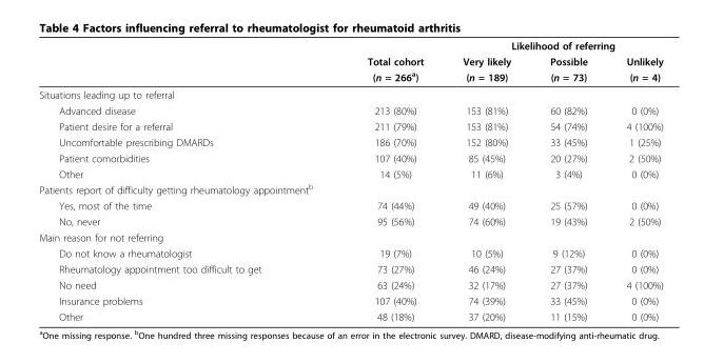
<table><thead><tr><td rowspan="3"></td><td rowspan="3">Total cohort (n = 266<sup>a</sup>)</td><td colspan="3">Likelihood of referring</td></tr><tr><td rowspan="2">Very likely (n = 189)</td><td rowspan="2">Possible (n = 73)</td><td rowspan="2">Unlikely (n = 4)</td></tr><tr></tr></thead><tbody><tr><td colspan="5">Situations leading up to referral</td></tr><tr><td>Advanced disease</td><td>213 (80%)</td><td>153 (81%)</td><td>60 (82%)</td><td>0 (0%)</td></tr><tr><td>Patient desire for a referral</td><td>211 (79%)</td><td>153 (81%)</td><td>54 (74%)</td><td>4 (100%)</td></tr><tr><td>Uncomfortable prescribing DMARDs</td><td>186 (70%)</td><td>152 (80%)</td><td>33 (45%)</td><td>1 (25%)</td></tr><tr><td>Patient comorbidities</td><td>107 (40%)</td><td>85 (45%)</td><td>20 (27%)</td><td>2 (50%)</td></tr><tr><td>Other</td><td>14 (5%)</td><td>11 (6%)</td><td>3 (4%)</td><td>0 (0%)</td></tr><tr><td colspan="5">Patients report of difficulty getting rheumatology appointment<sup>b</sup></td></tr><tr><td>Yes, most of the time</td><td>74 (44%)</td><td>49 (40%)</td><td>25 (57%)</td><td>0 (0%)</td></tr><tr><td>No, never</td><td>95 (56%)</td><td>74 (60%)</td><td>19 (43%)</td><td>2 (50%)</td></tr><tr><td colspan="5">Main reason for not referring</td></tr><tr><td>Do not know a rheumatologist</td><td>19 (7%)</td><td>10 (5%)</td><td>9 (12%)</td><td>0 (0%)</td></tr><tr><td>Rheumatology appointment too difficult to get</td><td>73 (27%)</td><td>46 (24%)</td><td>27 (37%)</td><td>0 (0%)</td></tr><tr><td>No need</td><td>63 (24%)</td><td>32 (17%)</td><td>27 (37%)</td><td>4 (100%)</td></tr><tr><td>Insurance problems</td><td>107 (40%)</td><td>74 (39%)</td><td>33 (45%)</td><td>0 (0%)</td></tr><tr><td>Other</td><td>48 (18%)</td><td>37 (20%)</td><td>11 (15%)</td><td>0 (0%)</td></tr></tbody></table>